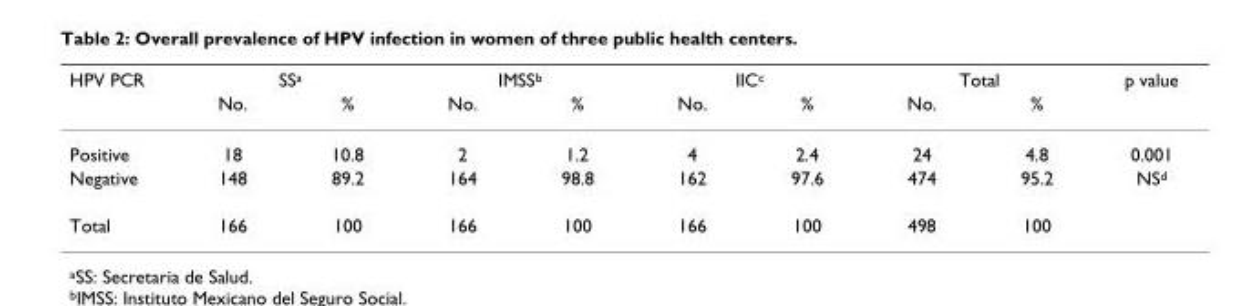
<table><thead><tr><td rowspan="2">HPV PCR</td><td colspan="2">SS<sup>a</sup></td><td colspan="2">IMSS<sup>b</sup></td><td colspan="2">IIC<sup>c</sup></td><td colspan="2">Total</td><td rowspan="2">p value</td></tr><tr><td>No.</td><td>%</td><td>No.</td><td>%</td><td>No.</td><td>%</td><td>No.</td><td>%</td></tr></thead><tbody><tr><td>Positive</td><td>18</td><td>10.8</td><td>2</td><td>1.2</td><td>4</td><td>2.4</td><td>24</td><td>4.8</td><td>0.001</td></tr><tr><td>Negative</td><td>148</td><td>89.2</td><td>164</td><td>98.8</td><td>162</td><td>97.6</td><td>474</td><td>95.2</td><td>NS<sup>d</sup></td></tr><tr><td>Total</td><td>166</td><td>100</td><td>166</td><td>100</td><td>166</td><td>100</td><td>498</td><td>100</td><td></td></tr></tbody></table>